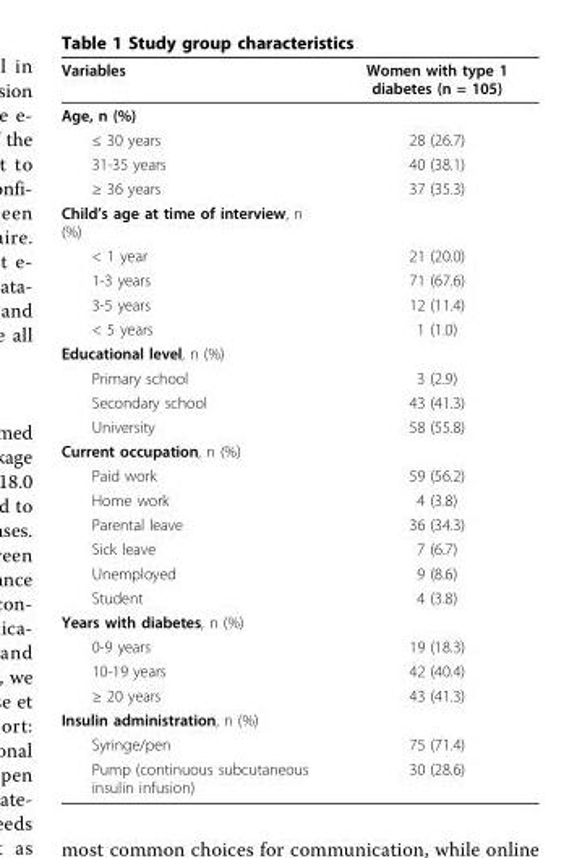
<table><thead><tr><td>Variables</td><td>Women with type 1 diabetes (n = 105)</td></tr></thead><tbody><tr><td colspan="2">Age, n (%)</td></tr><tr><td>≤ 30 years</td><td>28 (26.7)</td></tr><tr><td>31-35 years</td><td>40 (38.1)</td></tr><tr><td>≥ 36 years</td><td>37 (35.3)</td></tr><tr><td colspan="2">Child’s age at time of interview, n (%)</td></tr><tr><td>&lt; 1 year</td><td>21 (20.0)</td></tr><tr><td>1-3 years</td><td>71 (67.6)</td></tr><tr><td>3-5 years</td><td>12 (11.4)</td></tr><tr><td>&lt; 5 years</td><td>1 (1.0)</td></tr><tr><td colspan="2">Educational level, n (%)</td></tr><tr><td>Primary school</td><td>3 (2.9)</td></tr><tr><td>Secondary school</td><td>43 (41.3)</td></tr><tr><td>University</td><td>58 (55.8)</td></tr><tr><td colspan="2">Current occupation, n (%)</td></tr><tr><td>Paid work</td><td>59 (56.2)</td></tr><tr><td>Home work</td><td>4 (3.8)</td></tr><tr><td>Parental leave</td><td>36 (34.3)</td></tr><tr><td>Sick leave</td><td>7 (6.7)</td></tr><tr><td>Unemployed</td><td>9 (8.6)</td></tr><tr><td>Student</td><td>4 (3.8)</td></tr><tr><td colspan="2">Years with diabetes, n (%)</td></tr><tr><td>0-9 years</td><td>19 (18.3)</td></tr><tr><td>10-19 years</td><td>42 (40.4)</td></tr><tr><td>≥ 20 years</td><td>43 (41.3)</td></tr><tr><td colspan="2">Insulin administration, n (%)</td></tr><tr><td>Syringe/pen</td><td>75 (71.4)</td></tr><tr><td>Pump (continuous subcutaneous insulin infusion)</td><td>30 (28.6)</td></tr></tbody></table>